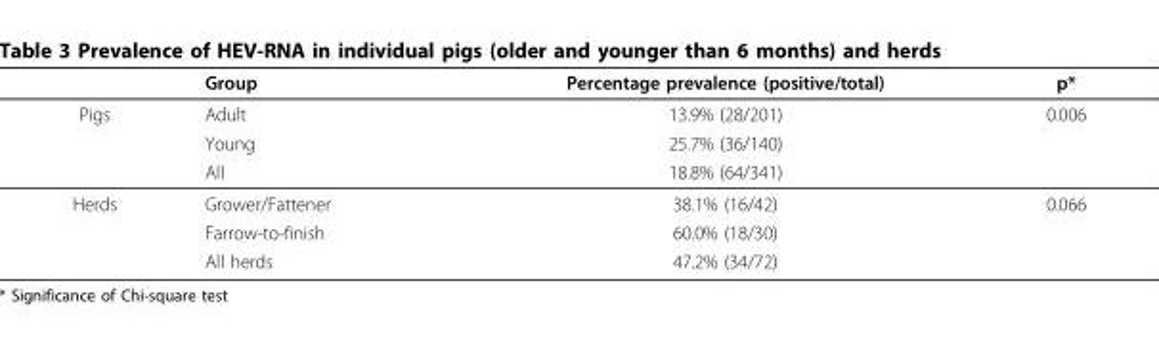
<table><thead><tr><td></td><td>Group</td><td>Percentage prevalence (positive/total)</td><td>p*</td></tr></thead><tbody><tr><td rowspan="3">Pigs</td><td>Adult</td><td>13.9% (28/201)</td><td>0.006</td></tr><tr><td>Young</td><td>25.7% (36/140)</td><td></td></tr><tr><td>All</td><td>18.8% (64/341)</td><td></td></tr><tr><td rowspan="3">Herds</td><td>Grower/Fattener</td><td>38.1% (16/42)</td><td>0.066</td></tr><tr><td>Farrow-to-finish</td><td>60.0% (18/30)</td><td></td></tr><tr><td>All herds</td><td>47.2% (34/72)</td><td></td></tr></tbody></table>